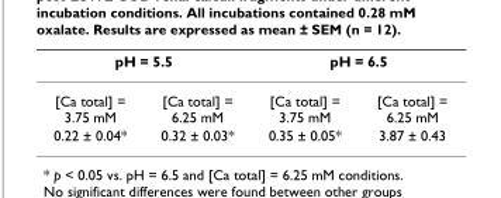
<table><thead><tr><td colspan="2">pH = 5.5</td><td colspan="2">pH = 6.5</td></tr><tr><td>[Ca total] = 3.75 mM</td><td>[Ca total] = 6.25 mM</td><td>[Ca total] = 3.75 mM</td><td>[Ca total] = 6.25 mM</td></tr></thead><tbody><tr><td>0.22 ± 0.04*</td><td>0.32 ± 0.03*</td><td>0.35 ± 0.05*</td><td>3.87 ± 0.43</td></tr></tbody></table>